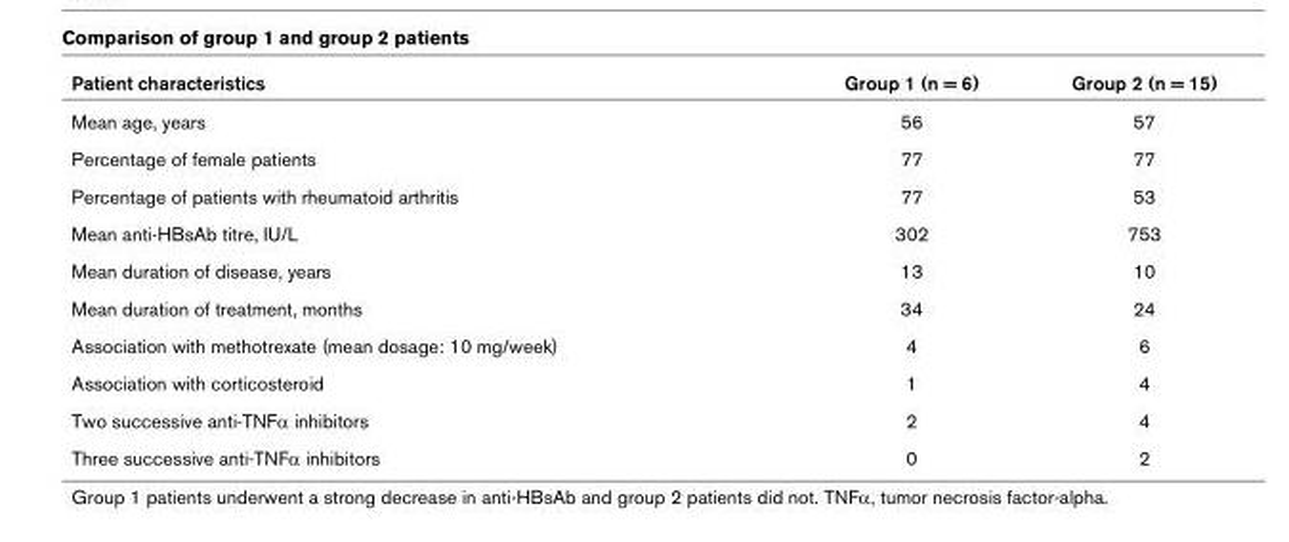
<table><thead><tr><td>Patient characteristics</td><td>Group 1 (n = 6)</td><td>Group 2 (n = 15)</td></tr></thead><tbody><tr><td>Mean age, years</td><td>56</td><td>57</td></tr><tr><td>Percentage of female patients</td><td>77</td><td>77</td></tr><tr><td>Percentage of patients with rheumatoid arthritis</td><td>77</td><td>53</td></tr><tr><td>Mean anti-HBsAb titre, IU/L</td><td>302</td><td>753</td></tr><tr><td>Mean duration of disease, years</td><td>13</td><td>10</td></tr><tr><td>Mean duration of treatment, months</td><td>34</td><td>24</td></tr><tr><td>Association with methotrexate (mean dosage: 10 mg/week)</td><td>4</td><td>6</td></tr><tr><td>Association with corticosteroid</td><td>1</td><td>4</td></tr><tr><td>Two successive anti-TNFα inhibitors</td><td>2</td><td>4</td></tr><tr><td>Three successive anti-TNFα inhibitors</td><td>0</td><td>2</td></tr></tbody></table>